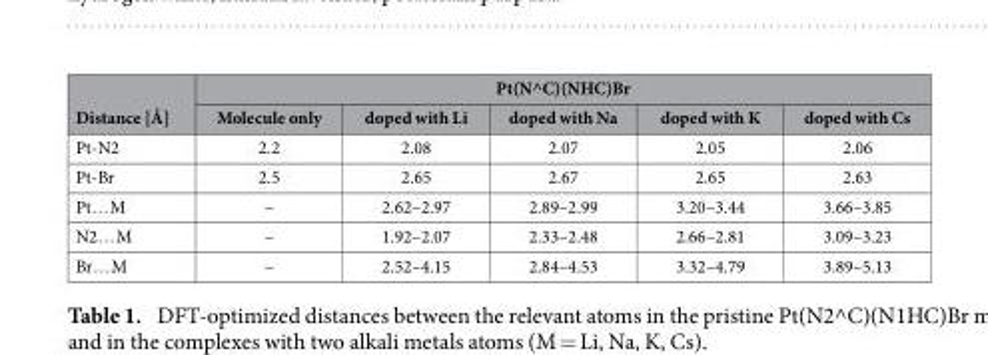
<table><thead><tr><td rowspan="2">Distance [Å]</td><td colspan="5">Pt(N^C)(NHC)Br</td></tr><tr><td>Molecule only</td><td>doped with Li</td><td>doped with Na</td><td>doped with K</td><td>doped with Cs</td></tr></thead><tbody><tr><td>Pt-N2</td><td>2.2</td><td>2.08</td><td>2.07</td><td>2.05</td><td>2.06</td></tr><tr><td>Pt-Br</td><td>2.5</td><td>2.65</td><td>2.67</td><td>2.65</td><td>2.63</td></tr><tr><td>Pt… M</td><td>–</td><td>2.62–2.97</td><td>2.89–2.99</td><td>3.20–3.44</td><td>3.66–3.85</td></tr><tr><td>N2… M</td><td>–</td><td>1.92–2.07</td><td>2.33–2.48</td><td>2.66–2.81</td><td>3.09–3.23</td></tr><tr><td>Br… M</td><td>–</td><td>2.52–4.15</td><td>2.84–4.53</td><td>3.32–4.79</td><td>3.89–5.13</td></tr></tbody></table>